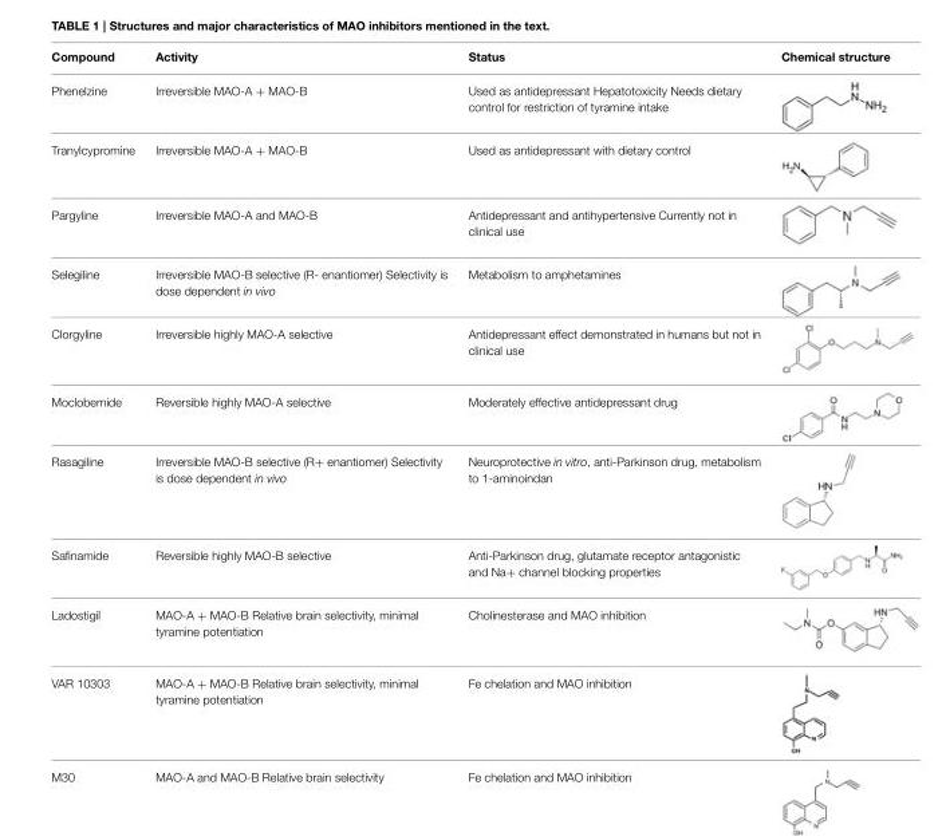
<table><thead><tr><td>Compound</td><td>Activity</td><td>Status</td><td>Chemical structure</td></tr></thead><tbody><tr><td>Phenelzine</td><td>Irreversible MAO-A + MAO-B</td><td>Used as antidepressant Hepatotoxicity Needs dietary control for restriction of tyramine intake</td><td></td></tr><tr><td>Tranylcypromine</td><td>Irreversible MAO-A + MAO-B</td><td>Used as antidepressant with dietary control</td><td></td></tr><tr><td>Pargyline</td><td>Irreversible MAO-A and MAO-B</td><td>Antidepressant and antihypertensive Currently not in clinical use</td><td></td></tr><tr><td>Selegiline</td><td>Irreversible MAO-B selective (R- enantiomer) Selectivity is dose dependent in vivo</td><td>Metabolism to amphetamines</td><td></td></tr><tr><td>Clorgyline</td><td>Irreversible highly MAO-A selective</td><td>Antidepressant effect demonstrated in humans but not in clinical use</td><td></td></tr><tr><td>Moclobemide</td><td>Reversible highly MAO-A selective</td><td>Moderately effective antidepressant drug</td><td></td></tr><tr><td>Rasagiline</td><td>Irreversible MAO-B selective (R+ enantiomer) Selectivity is dose dependent in vivo</td><td>Neuroprotective in vitro, anti-Parkinson drug, metabolism to 1-aminoindan</td><td></td></tr><tr><td>Safinamide</td><td>Reversible highly MAO-B selective</td><td>Anti-Parkinson drug, glutamate receptor antagonistic and Na+ channel blocking properties</td><td></td></tr><tr><td>Ladostigil</td><td>MAO-A + MAO-B Relative brain selectivity, minimal tyramine potentiation</td><td>Cholinesterase and MAO inhibition</td><td></td></tr><tr><td>VAR 10303</td><td>MAO-A + MAO-B Relative brain selectivity, minimal tyramine potentiation</td><td>Fe chelation and MAO inhibition</td><td></td></tr><tr><td>M30</td><td>MAO-A and MAO-B Relative brain selectivity</td><td>Fe chelation and MAO inhibition</td><td></td></tr></tbody></table>